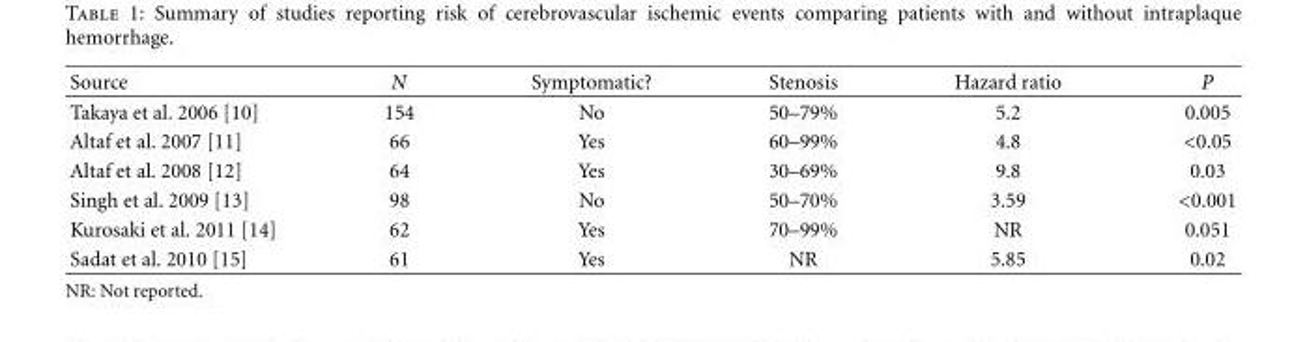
<table><thead><tr><td>Source</td><td>N</td><td>Symptomatic?</td><td>Stenosis</td><td>Hazard ratio</td><td>P</td></tr></thead><tbody><tr><td>Takaya et al. 2006 [10]</td><td>154</td><td>No</td><td>50–79%</td><td>5.2</td><td>0.005</td></tr><tr><td>Altaf et al. 2007 [11]</td><td>66</td><td>Yes</td><td>60–99%</td><td>4.8</td><td>&lt;0.05</td></tr><tr><td>Altaf et al. 2008 [12]</td><td>64</td><td>Yes</td><td>30–69%</td><td>9.8</td><td>0.03</td></tr><tr><td>Singh et al. 2009 [13]</td><td>98</td><td>No</td><td>50–70%</td><td>3.59</td><td>&lt;0.001</td></tr><tr><td>Kurosaki et al. 2011 [14]</td><td>62</td><td>Yes</td><td>70–99%</td><td>NR</td><td>0.051</td></tr><tr><td>Sadat et al. 2010 [15]</td><td>61</td><td>Yes</td><td>NR</td><td>5.85</td><td>0.02</td></tr></tbody></table>